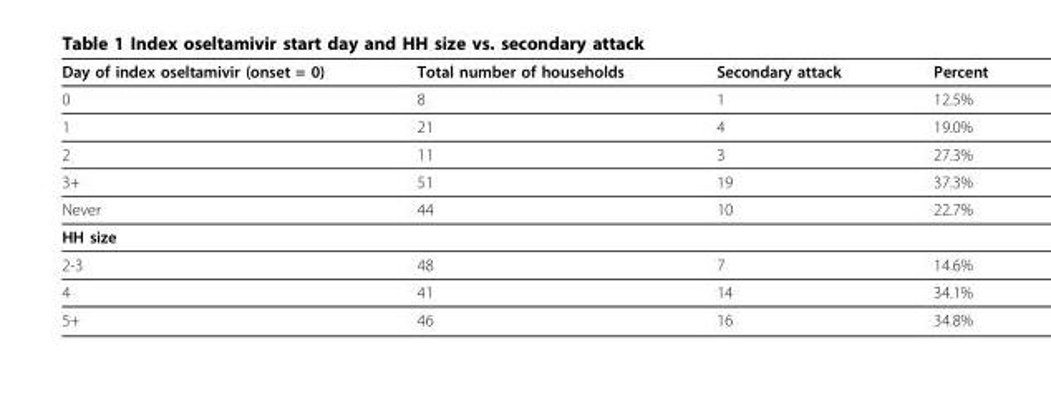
<table><thead><tr><td>Day of index oseltamivir (onset = 0)</td><td>Total number of households</td><td>Secondary attack</td><td>Percent</td></tr></thead><tbody><tr><td>0</td><td>8</td><td>1</td><td>12.5%</td></tr><tr><td>1</td><td>21</td><td>4</td><td>19.0%</td></tr><tr><td>2</td><td>11</td><td>3</td><td>27.3%</td></tr><tr><td>3+</td><td>51</td><td>19</td><td>37.3%</td></tr><tr><td>Never</td><td>44</td><td>10</td><td>22.7%</td></tr><tr><td colspan="4">HH size</td></tr><tr><td>2-3</td><td>48</td><td>7</td><td>14.6%</td></tr><tr><td>4</td><td>41</td><td>14</td><td>34.1%</td></tr><tr><td>5+</td><td>46</td><td>16</td><td>34.8%</td></tr></tbody></table>